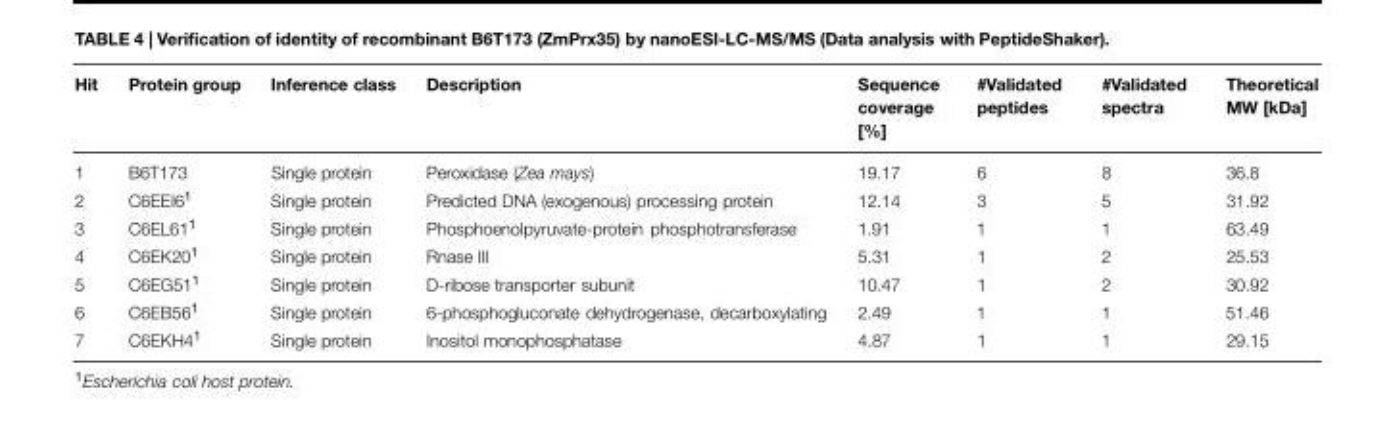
<table><thead><tr><td>Hit</td><td>Protein group</td><td>Inference class</td><td>Description</td><td>Sequence coverage [%]</td><td>#Validated peptides</td><td>#Validated spectra</td><td>Theoretical MW [kDa]</td></tr></thead><tbody><tr><td>1</td><td>B6T173</td><td>Single protein</td><td>Peroxidase (Zea mays)</td><td>19.17</td><td>6</td><td>8</td><td>36.8</td></tr><tr><td>2</td><td>C6EEI6<sup>1</sup></td><td>Single protein</td><td>Predicted DNA (exogenous) processing protein</td><td>12.14</td><td>3</td><td>5</td><td>31.92</td></tr><tr><td>3</td><td>C6EL61<sup>1</sup></td><td>Single protein</td><td>Phosphoenolpyruvate-protein phosphotransferase</td><td>1.91</td><td>1</td><td>1</td><td>63.49</td></tr><tr><td>4</td><td>C6EK20<sup>1</sup></td><td>Single protein</td><td>Rnase III</td><td>5.31</td><td>1</td><td>2</td><td>25.53</td></tr><tr><td>5</td><td>C6EG51<sup>1</sup></td><td>Single protein</td><td>D-ribose transporter subunit</td><td>10.47</td><td>1</td><td>2</td><td>30.92</td></tr><tr><td>6</td><td>C6EB56<sup>1</sup></td><td>Single protein</td><td>6-phosphogluconate dehydrogenase, decarboxylating</td><td>2.49</td><td>1</td><td>1</td><td>51.46</td></tr><tr><td>7</td><td>C6EKH4<sup>1</sup></td><td>Single protein</td><td>Inositol monophosphatase</td><td>4.87</td><td>1</td><td>1</td><td>29.15</td></tr></tbody></table>